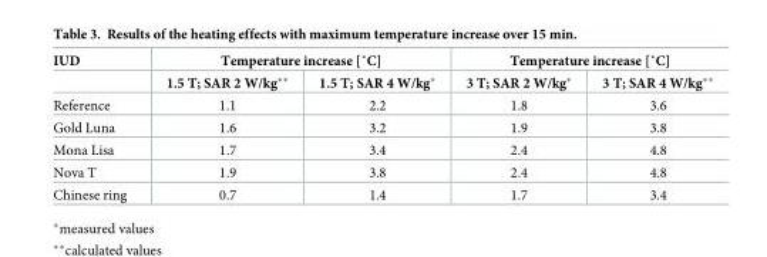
<table><thead><tr><td rowspan="2">IUD</td><td colspan="2">Temperature increase [˚C]</td><td colspan="2">Temperature increase [˚C]</td></tr><tr><td>1.5 T; SAR 2 W/kg**</td><td>1.5 T; SAR 4 W/kg*</td><td>3 T; SAR 2 W/kg*</td><td>3 T; SAR 4 W/kg**</td></tr></thead><tbody><tr><td>Reference</td><td>1.1</td><td>2.2</td><td>1.8</td><td>3.6</td></tr><tr><td>Gold Luna</td><td>1.6</td><td>3.2</td><td>1.9</td><td>3.8</td></tr><tr><td>Mona Lisa</td><td>1.7</td><td>3.4</td><td>2.4</td><td>4.8</td></tr><tr><td>Nova T</td><td>1.9</td><td>3.8</td><td>2.4</td><td>4.8</td></tr><tr><td>Chinese ring</td><td>0.7</td><td>1.4</td><td>1.7</td><td>3.4</td></tr></tbody></table>